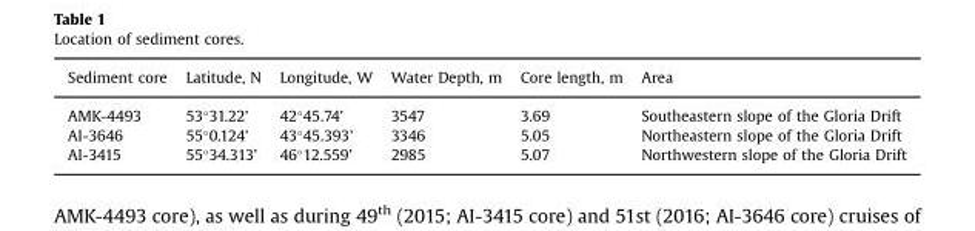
<table><thead><tr><td>Sediment core</td><td>Latitude, N</td><td>Longitude, W</td><td>Water Depth, m</td><td>Core length, m</td><td>Area</td></tr></thead><tbody><tr><td>AMK-4493</td><td>53°31.22’</td><td>42°45.74’</td><td>3547</td><td>3.69</td><td>Southeastern slope of the Gloria Drift</td></tr><tr><td>AI-3646</td><td>55°0.124’</td><td>43°45.393’</td><td>3346</td><td>5.05</td><td>Northeastern slope of the Gloria Drift</td></tr><tr><td>AI-3415</td><td>55°34.313’</td><td>46°12.559’</td><td>2985</td><td>5.07</td><td>Northwestern slope of the Gloria Drift</td></tr></tbody></table>